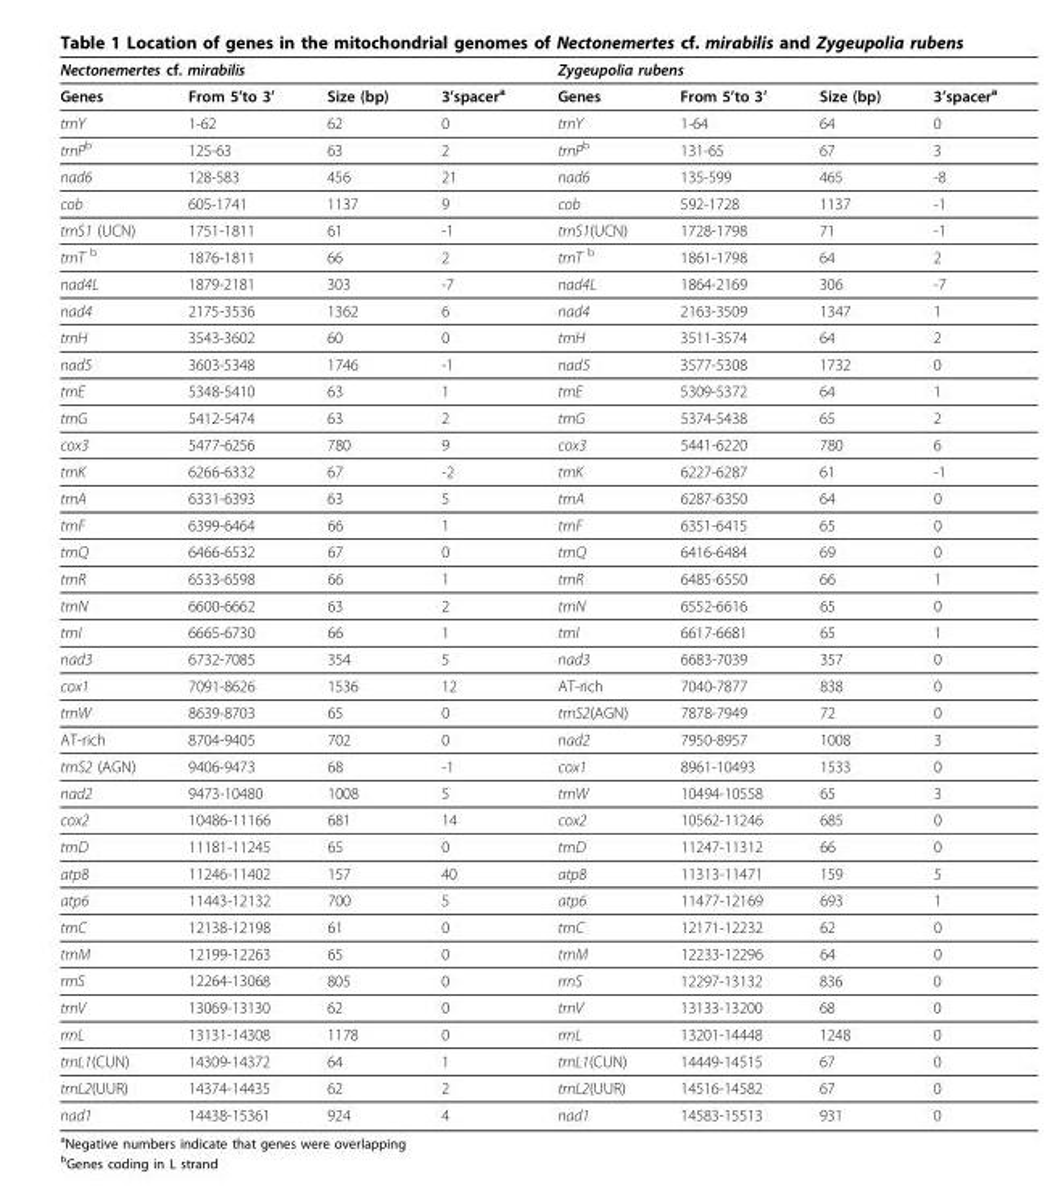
<table><thead><tr><td colspan="4">Nectonemertes cf. mirabilis</td><td colspan="4">Zygeupolia rubens</td></tr><tr><td>Genes</td><td>From 5’to 3’</td><td>Size (bp)</td><td>3’spacer<sup>a</sup></td><td>Genes</td><td>From 5’to 3’</td><td>Size (bp)</td><td>3’spacer<sup>a</sup></td></tr></thead><tbody><tr><td>trnY</td><td>1-62</td><td>62</td><td>0</td><td>trnY</td><td>1-64</td><td>64</td><td>0</td></tr><tr><td>trnP<sup>b</sup></td><td>125-63</td><td>63</td><td>2</td><td>trnP<sup>b</sup></td><td>131-65</td><td>67</td><td>3</td></tr><tr><td>nad6</td><td>128-583</td><td>456</td><td>21</td><td>nad6</td><td>135-599</td><td>465</td><td>-8</td></tr><tr><td>cob</td><td>605-1741</td><td>1137</td><td>9</td><td>cob</td><td>592-1728</td><td>1137</td><td>-1</td></tr><tr><td>trnS1 (UCN)</td><td>1751-1811</td><td>61</td><td>-1</td><td>trnS1(UCN)</td><td>1728-1798</td><td>71</td><td>-1</td></tr><tr><td>trnT <sup>b</sup></td><td>1876-1811</td><td>66</td><td>2</td><td>trnT <sup>b</sup></td><td>1861-1798</td><td>64</td><td>2</td></tr><tr><td>nad4L</td><td>1879-2181</td><td>303</td><td>-7</td><td>nad4L</td><td>1864-2169</td><td>306</td><td>-7</td></tr><tr><td>nad4</td><td>2175-3536</td><td>1362</td><td>6</td><td>nad4</td><td>2163-3509</td><td>1347</td><td>1</td></tr><tr><td>trnH</td><td>3543-3602</td><td>60</td><td>0</td><td>trnH</td><td>3511-3574</td><td>64</td><td>2</td></tr><tr><td>nad5</td><td>3603-5348</td><td>1746</td><td>-1</td><td>nad5</td><td>3577-5308</td><td>1732</td><td>0</td></tr><tr><td>trnE</td><td>5348-5410</td><td>63</td><td>1</td><td>trnE</td><td>5309-5372</td><td>64</td><td>1</td></tr><tr><td>trnG</td><td>5412-5474</td><td>63</td><td>2</td><td>trnG</td><td>5374-5438</td><td>65</td><td>2</td></tr><tr><td>cox3</td><td>5477-6256</td><td>780</td><td>9</td><td>cox3</td><td>5441-6220</td><td>780</td><td>6</td></tr><tr><td>trnK</td><td>6266-6332</td><td>67</td><td>-2</td><td>trnK</td><td>6227-6287</td><td>61</td><td>-1</td></tr><tr><td>trnA</td><td>6331-6393</td><td>63</td><td>5</td><td>trnA</td><td>6287-6350</td><td>64</td><td>0</td></tr><tr><td>trnF</td><td>6399-6464</td><td>66</td><td>1</td><td>trnF</td><td>6351-6415</td><td>65</td><td>0</td></tr><tr><td>trnQ</td><td>6466-6532</td><td>67</td><td>0</td><td>trnQ</td><td>6416-6484</td><td>69</td><td>0</td></tr><tr><td>trnR</td><td>6533-6598</td><td>66</td><td>1</td><td>trnR</td><td>6485-6550</td><td>66</td><td>1</td></tr><tr><td>trnN</td><td>6600-6662</td><td>63</td><td>2</td><td>trnN</td><td>6552-6616</td><td>65</td><td>0</td></tr><tr><td>trnI</td><td>6665-6730</td><td>66</td><td>1</td><td>trnI</td><td>6617-6681</td><td>65</td><td>1</td></tr><tr><td>nad3</td><td>6732-7085</td><td>354</td><td>5</td><td>nad3</td><td>6683-7039</td><td>357</td><td>0</td></tr><tr><td>cox1</td><td>7091-8626</td><td>1536</td><td>12</td><td>AT-rich</td><td>7040-7877</td><td>838</td><td>0</td></tr><tr><td>trnW</td><td>8639-8703</td><td>65</td><td>0</td><td>trnS2(AGN)</td><td>7878-7949</td><td>72</td><td>0</td></tr><tr><td>AT-rich</td><td>8704-9405</td><td>702</td><td>0</td><td>nad2</td><td>7950-8957</td><td>1008</td><td>3</td></tr><tr><td>trnS2 (AGN)</td><td>9406-9473</td><td>68</td><td>-1</td><td>cox1</td><td>8961-10493</td><td>1533</td><td>0</td></tr><tr><td>nad2</td><td>9473-10480</td><td>1008</td><td>5</td><td>trnW</td><td>10494-10558</td><td>65</td><td>3</td></tr><tr><td>cox2</td><td>10486-11166</td><td>681</td><td>14</td><td>cox2</td><td>10562-11246</td><td>685</td><td>0</td></tr><tr><td>trnD</td><td>11181-11245</td><td>65</td><td>0</td><td>trnD</td><td>11247-11312</td><td>66</td><td>0</td></tr><tr><td>atp8</td><td>11246-11402</td><td>157</td><td>40</td><td>atp8</td><td>11313-11471</td><td>159</td><td>5</td></tr><tr><td>atp6</td><td>11443-12132</td><td>700</td><td>5</td><td>atp6</td><td>11477-12169</td><td>693</td><td>1</td></tr><tr><td>trnC</td><td>12138-12198</td><td>61</td><td>0</td><td>trnC</td><td>12171-12232</td><td>62</td><td>0</td></tr><tr><td>trnM</td><td>12199-12263</td><td>65</td><td>0</td><td>trnM</td><td>12233-12296</td><td>64</td><td>0</td></tr><tr><td>rrnS</td><td>12264-13068</td><td>805</td><td>0</td><td>rrnS</td><td>12297-13132</td><td>836</td><td>0</td></tr><tr><td>trnV</td><td>13069-13130</td><td>62</td><td>0</td><td>trnV</td><td>13133-13200</td><td>68</td><td>0</td></tr><tr><td>rrnL</td><td>13131-14308</td><td>1178</td><td>0</td><td>rrnL</td><td>13201-14448</td><td>1248</td><td>0</td></tr><tr><td>trnL1(CUN)</td><td>14309-14372</td><td>64</td><td>1</td><td>trnL1(CUN)</td><td>14449-14515</td><td>67</td><td>0</td></tr><tr><td>trnL2(UUR)</td><td>14374-14435</td><td>62</td><td>2</td><td>trnL2(UUR)</td><td>14516-14582</td><td>67</td><td>0</td></tr><tr><td>nad1</td><td>14438-15361</td><td>924</td><td>4</td><td>nad1</td><td>14583-15513</td><td>931</td><td>0</td></tr></tbody></table>